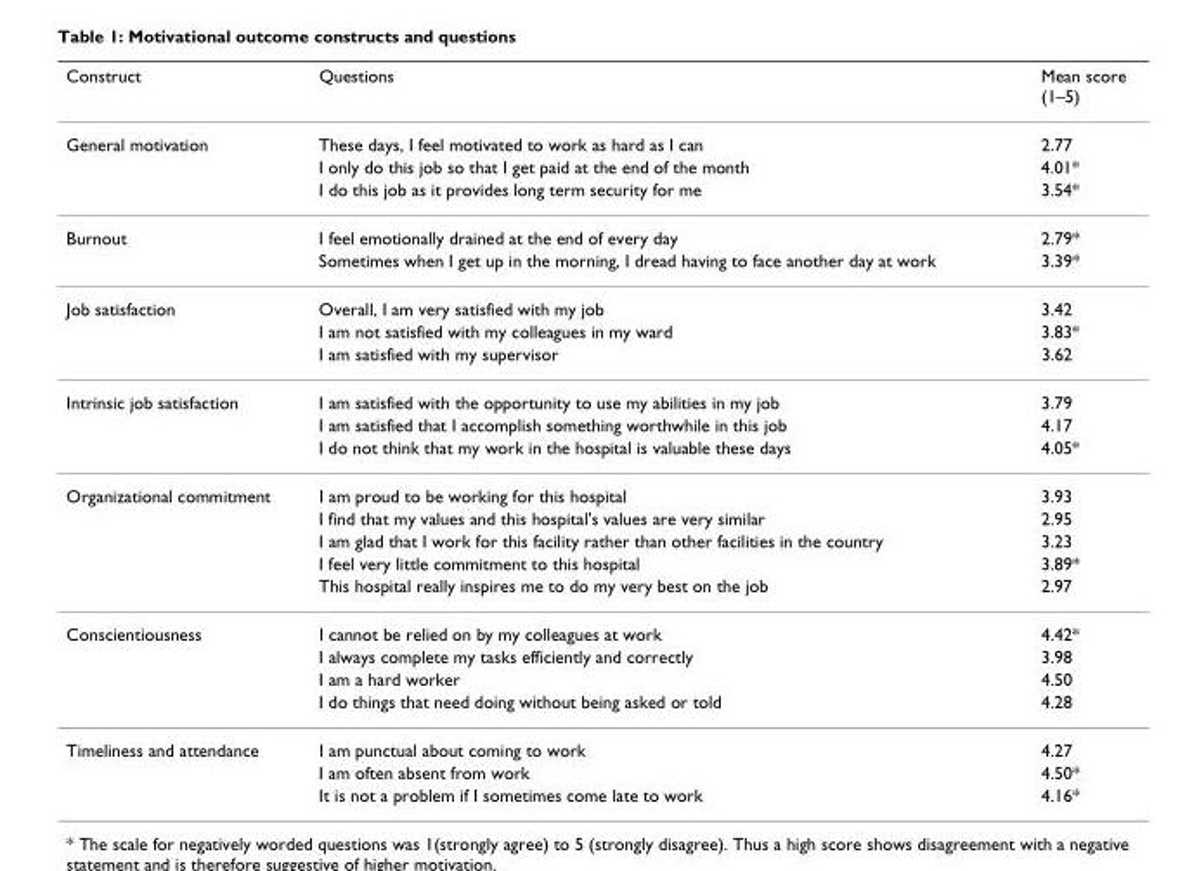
<table><thead><tr><td>Construct</td><td>Questions</td><td>Mean score (1–5)</td></tr></thead><tbody><tr><td rowspan="3">General motivation</td><td>These days, I feel motivated to work as hard as I can</td><td>2.77</td></tr><tr><td>I only do this job so that I get paid at the end of the month</td><td>4.01*</td></tr><tr><td>I do this job as it provides long term security for me</td><td>3.54*</td></tr><tr><td rowspan="2">Burnout</td><td>I feel emotionally drained at the end of every day</td><td>2.79*</td></tr><tr><td>Sometimes when I get up in the morning, I dread having to face another day at work</td><td>3.39*</td></tr><tr><td rowspan="3">Job satisfaction</td><td>Overall, I am very satisfied with my job</td><td>3.42</td></tr><tr><td>I am not satisfied with my colleagues in my ward</td><td>3.83*</td></tr><tr><td>I am satisfied with my supervisor</td><td>3.62</td></tr><tr><td rowspan="3">Intrinsic job satisfaction</td><td>I am satisfied with the opportunity to use my abilities in my job</td><td>3.79</td></tr><tr><td>I am satisfied that I accomplish something worthwhile in this job</td><td>4.17</td></tr><tr><td>I do not think that my work in the hospital is valuable these days</td><td>4.05*</td></tr><tr><td rowspan="5">Organizational commitment</td><td>I am proud to be working for this hospital</td><td>3.93</td></tr><tr><td>I find that my values and this hospital&#x27;s values are very similar</td><td>2.95</td></tr><tr><td>I am glad that I work for this facility rather than other facilities in the country</td><td>3.23</td></tr><tr><td>I feel very little commitment to this hospital</td><td>3.89*</td></tr><tr><td>This hospital really inspires me to do my very best on the job</td><td>2.97</td></tr><tr><td rowspan="4">Conscientiousness</td><td>I cannot be relied on by my colleagues at work</td><td>4.42*</td></tr><tr><td>I always complete my tasks efficiently and correctly</td><td>3.98</td></tr><tr><td>I am a hard worker</td><td>4.50</td></tr><tr><td>I do things that need doing without being asked or told</td><td>4.28</td></tr><tr><td rowspan="3">Timeliness and attendance</td><td>I am punctual about coming to work</td><td>4.27</td></tr><tr><td>I am often absent from work</td><td>4.50*</td></tr><tr><td>It is not a problem if I sometimes come late to work</td><td>4.16*</td></tr></tbody></table>